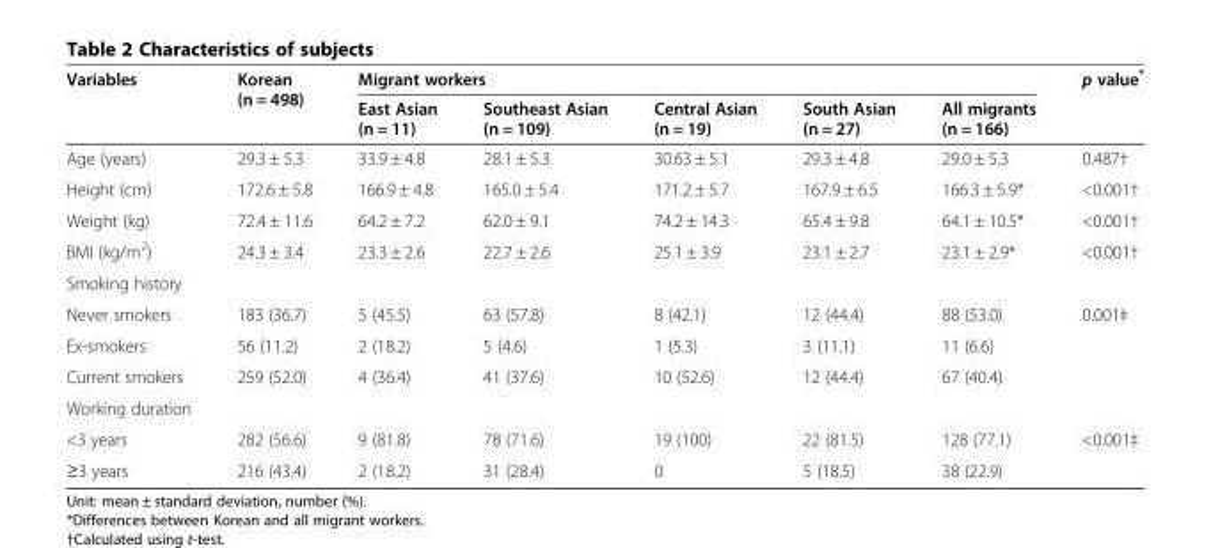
<table><thead><tr><td rowspan="2">Variables</td><td rowspan="2">Korean (n = 498)</td><td colspan="5">Migrant workers</td><td rowspan="2">p value*</td></tr><tr><td>East Asian (n = 11)</td><td>Southeast Asian (n = 109)</td><td>Central Asian (n = 19)</td><td>South Asian (n = 27)</td><td>All migrants (n = 166)</td></tr></thead><tbody><tr><td>Age (years)</td><td>29.3 ± 5.3</td><td>33.9 ± 4.8</td><td>28.1 ± 5.3</td><td>30.63 ± 5.1</td><td>29.3 ± 4.8</td><td>29.0 ± 5.3</td><td>0.487†</td></tr><tr><td>Height (cm)</td><td>172.6 ± 5.8</td><td>166.9 ± 4.8</td><td>165.0 ± 5.4</td><td>171.2 ± 5.7</td><td>167.9 ± 6.5</td><td>166.3 ± 5.9*</td><td>&lt;0.001†</td></tr><tr><td>Weight (kg)</td><td>72.4 ± 11.6</td><td>64.2 ± 7.2</td><td>62.0 ± 9.1</td><td>74.2 ± 14.3</td><td>65.4 ± 9.8</td><td>64.1 ± 10.5*</td><td>&lt;0.001†</td></tr><tr><td>BMI (kg/m<sup>2</sup>)</td><td>24.3 ± 3.4</td><td>23.3 ± 2.6</td><td>22.7 ± 2.6</td><td>25.1 ± 3.9</td><td>23.1 ± 2.7</td><td>23.1 ± 2.9*</td><td>&lt;0.001†</td></tr><tr><td colspan="8">Smoking history</td></tr><tr><td>Never smokers</td><td>183 (36.7)</td><td>5 (45.5)</td><td>63 (57.8)</td><td>8 (42.1)</td><td>12 (44.4)</td><td>88 (53.0)</td><td>0.001‡</td></tr><tr><td>Ex-smokers</td><td>56 (11.2)</td><td>2 (18.2)</td><td>5 (4.6)</td><td>1 (5.3)</td><td>3 (11.1)</td><td>11 (6.6)</td><td></td></tr><tr><td>Current smokers</td><td>259 (52.0)</td><td>4 (36.4)</td><td>41 (37.6)</td><td>10 (52.6)</td><td>12 (44.4)</td><td>67 (40.4)</td><td></td></tr><tr><td colspan="8">Working duration</td></tr><tr><td>&lt;3 years</td><td>282 (56.6)</td><td>9 (81.8)</td><td>78 (71.6)</td><td>19 (100)</td><td>22 (81.5)</td><td>128 (77.1)</td><td>&lt;0.001‡</td></tr><tr><td>≥3 years</td><td>216 (43.4)</td><td>2 (18.2)</td><td>31 (28.4)</td><td>0</td><td>5 (18.5)</td><td>38 (22.9)</td><td></td></tr></tbody></table>